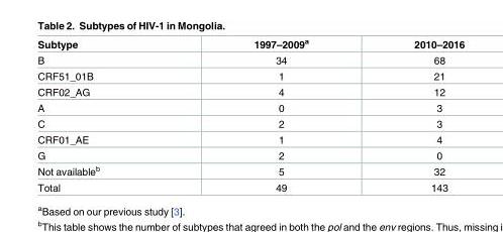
<table><thead><tr><td>Subtype</td><td>1997–2009<sup>a</sup></td><td>2010–2016</td></tr></thead><tbody><tr><td>B</td><td>34</td><td>68</td></tr><tr><td>CRF51_01B</td><td>1</td><td>21</td></tr><tr><td>CRF02_AG</td><td>4</td><td>12</td></tr><tr><td>A</td><td>0</td><td>3</td></tr><tr><td>C</td><td>2</td><td>3</td></tr><tr><td>CRF01_AE</td><td>1</td><td>4</td></tr><tr><td>G</td><td>2</td><td>0</td></tr><tr><td>Not available<sup>b</sup></td><td>5</td><td>32</td></tr><tr><td>Total</td><td>49</td><td>143</td></tr></tbody></table>